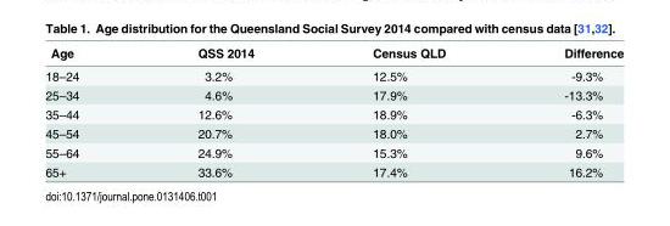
<table><thead><tr><td>Age</td><td>QSS 2014</td><td>Census QLD</td><td>Difference</td></tr></thead><tbody><tr><td>18–24</td><td>3.2%</td><td>12.5%</td><td>-9.3%</td></tr><tr><td>25–34</td><td>4.6%</td><td>17.9%</td><td>-13.3%</td></tr><tr><td>35–44</td><td>12.6%</td><td>18.9%</td><td>-6.3%</td></tr><tr><td>45–54</td><td>20.7%</td><td>18.0%</td><td>2.7%</td></tr><tr><td>55–64</td><td>24.9%</td><td>15.3%</td><td>9.6%</td></tr><tr><td>65+</td><td>33.6%</td><td>17.4%</td><td>16.2%</td></tr></tbody></table>